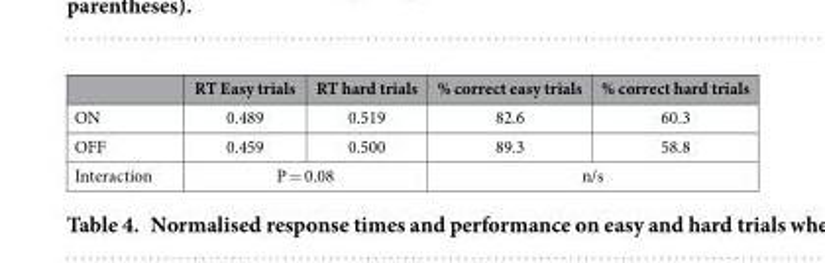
<table><thead><tr><td></td><td>RT Easy trials</td><td>RT hard trials</td><td>% correct easy trials</td><td>% correct hard trials</td></tr></thead><tbody><tr><td>ON</td><td>0.489</td><td>0.519</td><td>82.6</td><td>60.3</td></tr><tr><td>OFF</td><td>0.459</td><td>0.500</td><td>89.3</td><td>58.8</td></tr><tr><td>Interaction</td><td colspan="2">P = 0.08</td><td colspan="2">n/s</td></tr></tbody></table>